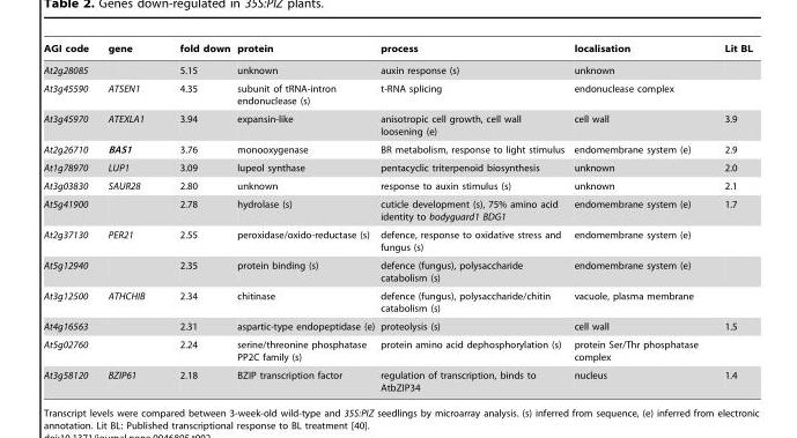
<table><thead><tr><td>AGI code</td><td>gene</td><td>fold down</td><td>protein</td><td>process</td><td>localisation</td><td>Lit BL</td></tr></thead><tbody><tr><td>At2g28085</td><td></td><td>5.15</td><td>unknown</td><td>auxin response (s)</td><td>unknown</td><td></td></tr><tr><td>At3g45590</td><td>ATSEN1</td><td>4.35</td><td>subunit of tRNA-intron endonuclease (s)</td><td>t-RNA splicing</td><td>endonuclease complex</td><td></td></tr><tr><td>At3g45970</td><td>ATEXLA1</td><td>3.94</td><td>expansin-like</td><td>anisotropic cell growth, cell wall loosening (e)</td><td>cell wall</td><td>3.9</td></tr><tr><td>At2g26710</td><td>BAS1</td><td>3.76</td><td>monooxygenase</td><td>BR metabolism, response to light stimulus</td><td>endomembrane system (e)</td><td>2.9</td></tr><tr><td>At1g78970</td><td>LUP1</td><td>3.09</td><td>lupeol synthase</td><td>pentacyclic triterpenoid biosynthesis</td><td>unknown</td><td>2.0</td></tr><tr><td>At3g03830</td><td>SAUR28</td><td>2.80</td><td>unknown</td><td>response to auxin stimulus (s)</td><td>unknown</td><td>2.1</td></tr><tr><td>At5g41900</td><td></td><td>2.78</td><td>hydrolase (s)</td><td>cuticle development (s), 75% amino acid identity to bodyguard1 BDG1</td><td>endomembrane system (e)</td><td>1.7</td></tr><tr><td>At2g37130</td><td>PER21</td><td>2.55</td><td>peroxidase/oxido-reductase (s)</td><td>defence, response to oxidative stress and fungus (s)</td><td>endomembrane system (e)</td><td></td></tr><tr><td>At5g12940</td><td></td><td>2.35</td><td>protein binding (s)</td><td>defence (fungus), polysaccharide catabolism (s)</td><td>endomembrane system (e)</td><td></td></tr><tr><td>At3g12500</td><td>ATHCHIB</td><td>2.34</td><td>chitinase</td><td>defence (fungus), polysaccharide/chitin catabolism (s)</td><td>vacuole, plasma membrane</td><td></td></tr><tr><td>At4g16563</td><td></td><td>2.31</td><td>aspartic-type endopeptidase (e)</td><td>proteolysis (s)</td><td>cell wall</td><td>1.5</td></tr><tr><td>At5g02760</td><td></td><td>2.24</td><td>serine/threonine phosphatase PP2C family (s)</td><td>protein amino acid dephosphorylation (s)</td><td>protein Ser/Thr phosphatase complex</td><td></td></tr><tr><td>At3g58120</td><td>BZIP61</td><td>2.18</td><td>BZIP transcription factor</td><td>regulation of transcription, binds to AtbZIP34</td><td>nucleus</td><td>1.4</td></tr></tbody></table>